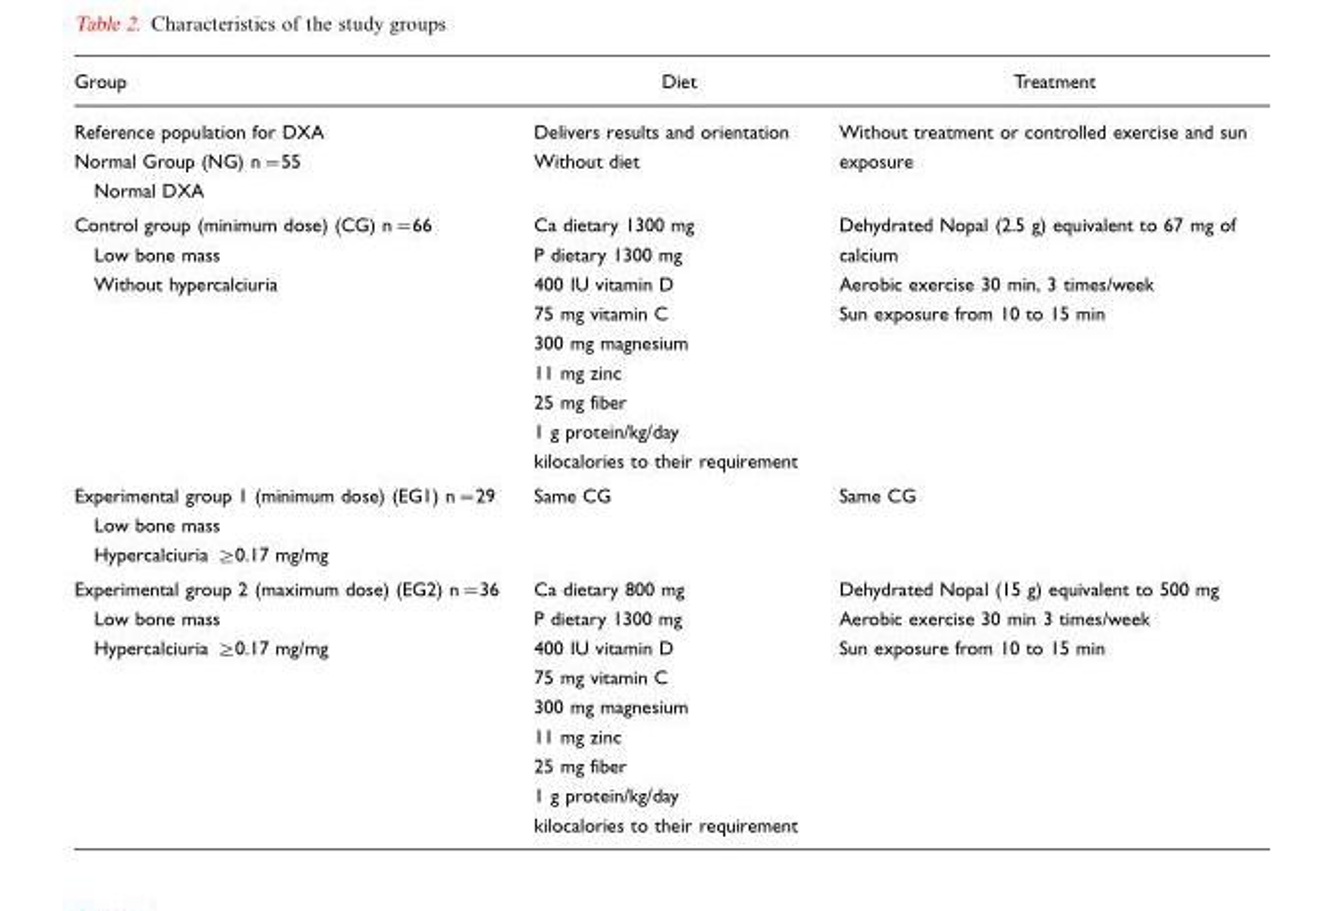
<table><thead><tr><td>Group</td><td>Diet</td><td>Treatment</td></tr></thead><tbody><tr><td>Reference population for DXA Normal Group (NG) n=55 Normal DXA</td><td>Delivers results and orientation Without diet</td><td>Without treatment or controlled exercise and sun exposure</td></tr><tr><td>Control group (minimum dose) (CG) n=66 Low bone mass Without hypercalciuria</td><td>Ca dietary 1300 mg P dietary 1300 mg 400 IU vitamin D 75 mg vitamin C 300 mg magnesium 11 mg zinc 25 mg fiber 1 g protein/kg/day kilocalories to their requirement</td><td>Dehydrated Nopal (2.5 g) equivalent to 67 mg of calcium Aerobic exercise 30 min, 3 times/week Sun exposure from 10 to 15 min</td></tr><tr><td>Experimental group 1 (minimum dose) (EG1) n=29 Low bone mass Hypercalciuria ≥0.17 mg/mg</td><td>Same CG</td><td>Same CG</td></tr><tr><td>Experimental group 2 (maximum dose) (EG2) n=36 Low bone mass Hypercalciuria ≥0.17 mg/mg</td><td>Ca dietary 800 mg P dietary 1300 mg 400 IU vitamin D 75 mg vitamin C 300 mg magnesium 11 mg zinc 25 mg fiber 1 g protein/kg/day kilocalories to their requirement</td><td>Dehydrated Nopal (15 g) equivalent to 500 mg Aerobic exercise 30 min 3 times/week Sun exposure from 10 to 15 min</td></tr></tbody></table>